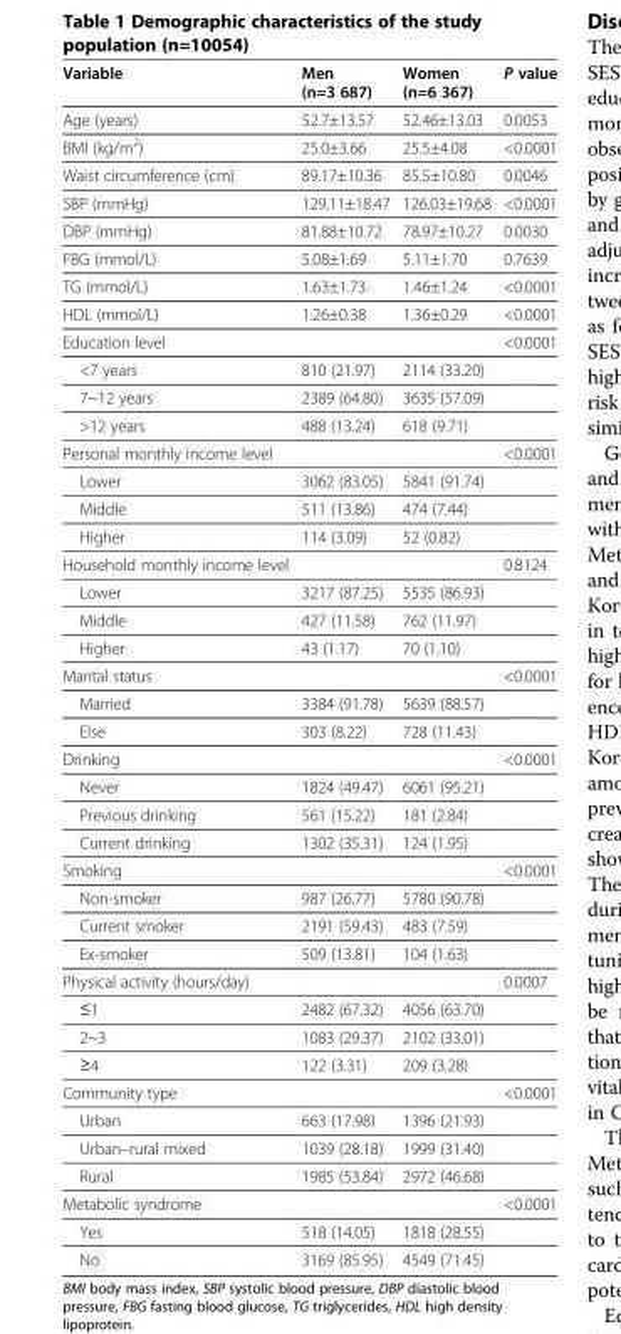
<table><thead><tr><td>Variable</td><td>Men (n=3 687)</td><td>Women (n=6 367)</td><td>P value</td></tr></thead><tbody><tr><td>Age (years)</td><td>52.7±13.57</td><td>52.46±13.03</td><td>0.0053</td></tr><tr><td>BMI (kg/m<sup>2</sup>)</td><td>25.0±3.66</td><td>25.5±4.08</td><td>&lt;0.0001</td></tr><tr><td>Waist circumference (cm)</td><td>89.17±10.36</td><td>85.5±10.80</td><td>0.0046</td></tr><tr><td>SBP (mmHg)</td><td>129.11±18.47</td><td>126.03±19.68</td><td>&lt;0.0001</td></tr><tr><td>DBP (mmHg)</td><td>81.88±10.72</td><td>78.97±10.27</td><td>0.0030</td></tr><tr><td>FBG (mmol/L)</td><td>5.08±1.69</td><td>5.11±1.70</td><td>0.7639</td></tr><tr><td>TG (mmol/L)</td><td>1.63±1.73</td><td>1.46±1.24</td><td>&lt;0.0001</td></tr><tr><td>HDL (mmol/L)</td><td>1.26±0.38</td><td>1.36±0.29</td><td>&lt;0.0001</td></tr><tr><td>Education level</td><td></td><td></td><td>&lt;0.0001</td></tr><tr><td>&lt;7 years</td><td>810 (21.97)</td><td>2114 (33.20)</td><td></td></tr><tr><td>7~12 years</td><td>2389 (64.80)</td><td>3635 (57.09)</td><td></td></tr><tr><td>&gt;12 years</td><td>488 (13.24)</td><td>618 (9.71)</td><td></td></tr><tr><td>Personal monthly income level</td><td></td><td></td><td>&lt;0.0001</td></tr><tr><td>Lower</td><td>3062 (83.05)</td><td>5841 (91.74)</td><td></td></tr><tr><td>Middle</td><td>511 (13.86)</td><td>474 (7.44)</td><td></td></tr><tr><td>Higher</td><td>114 (3.09)</td><td>52 (0.82)</td><td></td></tr><tr><td>Household monthly income level</td><td></td><td></td><td>0.8124</td></tr><tr><td>Lower</td><td>3217 (87.25)</td><td>5535 (86.93)</td><td></td></tr><tr><td>Middle</td><td>427 (11.58)</td><td>762 (11.97)</td><td></td></tr><tr><td>Higher</td><td>43 (1.17)</td><td>70 (1.10)</td><td></td></tr><tr><td>Marital status</td><td></td><td></td><td>&lt;0.0001</td></tr><tr><td>Married</td><td>3384 (91.78)</td><td>5639 (88.57)</td><td></td></tr><tr><td>Else</td><td>303 (8.22)</td><td>728 (11.43)</td><td></td></tr><tr><td>Drinking</td><td></td><td></td><td>&lt;0.0001</td></tr><tr><td>Never</td><td>1824 (49.47)</td><td>6061 (95.21)</td><td></td></tr><tr><td>Previous drinking</td><td>561 (15.22)</td><td>181 (2.84)</td><td></td></tr><tr><td>Current drinking</td><td>1302 (35.31)</td><td>124 (1.95)</td><td></td></tr><tr><td>Smoking</td><td></td><td></td><td>&lt;0.0001</td></tr><tr><td>Non-smoker</td><td>987 (26.77)</td><td>5780 (90.78)</td><td></td></tr><tr><td>Current smoker</td><td>2191 (59.43)</td><td>483 (7.59)</td><td></td></tr><tr><td>Ex-smoker</td><td>509 (13.81)</td><td>104 (1.63)</td><td></td></tr><tr><td>Physical activity (hours/day)</td><td></td><td></td><td>0.0007</td></tr><tr><td>≤1</td><td>2482 (67.32)</td><td>4056 (63.70)</td><td></td></tr><tr><td>2~3</td><td>1083 (29.37)</td><td>2102 (33.01)</td><td></td></tr><tr><td>≥4</td><td>122 (3.31)</td><td>209 (3.28)</td><td></td></tr><tr><td>Community type</td><td></td><td></td><td>&lt;0.0001</td></tr><tr><td>Urban</td><td>663 (17.98)</td><td>1396 (21.93)</td><td></td></tr><tr><td>Urban–rural mixed</td><td>1039 (28.18)</td><td>1999 (31.40)</td><td></td></tr><tr><td>Rural</td><td>1985 (53.84)</td><td>2972 (46.68)</td><td></td></tr><tr><td>Metabolic syndrome</td><td></td><td></td><td>&lt;0.0001</td></tr><tr><td>Yes</td><td>518 (14.05)</td><td>1818 (28.55)</td><td></td></tr><tr><td>No</td><td>3169 (85.95)</td><td>4549 (71.45)</td><td></td></tr></tbody></table>